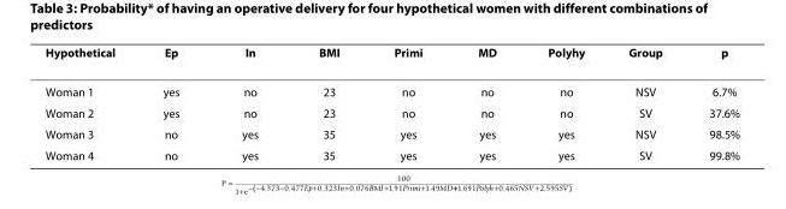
<table><thead><tr><td>Hypothetical</td><td>Ep</td><td>In</td><td>BMI</td><td>Primi</td><td>MD</td><td>Polyhy</td><td>Group</td><td>p</td></tr></thead><tbody><tr><td>Woman 1</td><td>yes</td><td>no</td><td>23</td><td>no</td><td>no</td><td>no</td><td>NSV</td><td>6.7%</td></tr><tr><td>Woman 2</td><td>yes</td><td>no</td><td>23</td><td>no</td><td>no</td><td>no</td><td>SV</td><td>37.6%</td></tr><tr><td>Woman 3</td><td>no</td><td>yes</td><td>35</td><td>yes</td><td>yes</td><td>yes</td><td>NSV</td><td>98.5%</td></tr><tr><td>Woman 4</td><td>no</td><td>yes</td><td>35</td><td>yes</td><td>yes</td><td>yes</td><td>SV</td><td>99.8%</td></tr></tbody></table>